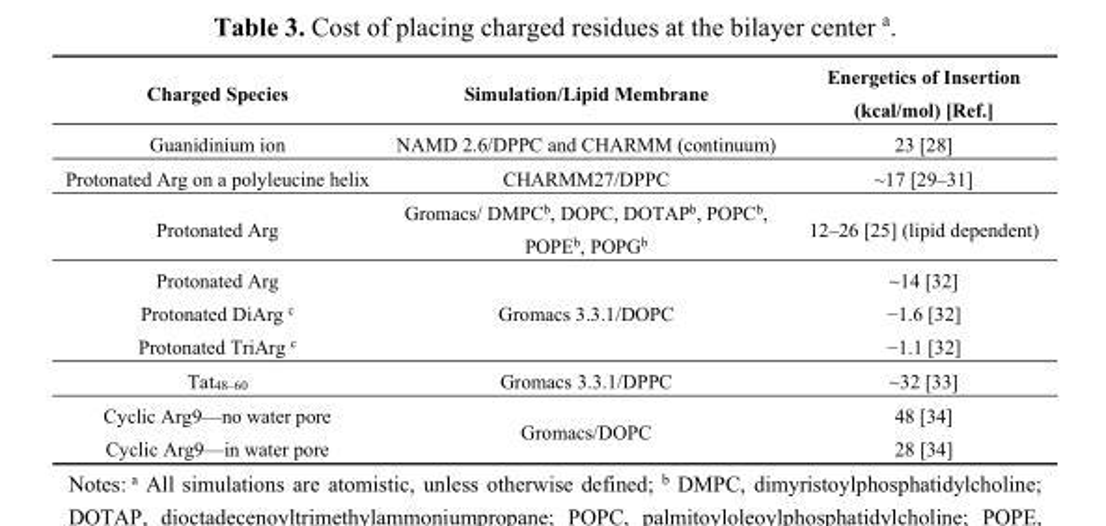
<table><thead><tr><td>Charged Species</td><td>Simulation/Lipid Membrane</td><td>Energetics of Insertion (kcal/mol) [Ref.]</td></tr></thead><tbody><tr><td>Guanidinium ion</td><td>NAMD 2.6/DPPC and CHARMM (continuum)</td><td>23 [28]</td></tr><tr><td>Protonated Arg on a polyleucine helix</td><td>CHARMM27/DPPC</td><td>~17 [29–31]</td></tr><tr><td>Protonated Arg</td><td>Gromacs/ DMPC<sup>b</sup>, DOPC, DOTAP<sup>b</sup>, POPC<sup>b</sup>, POPE<sup>b</sup>, POPG<sup>b</sup></td><td>12–26 [25] (lipid dependent)</td></tr><tr><td>Protonated Arg</td><td rowspan="3">Gromacs 3.3.1/DOPC</td><td>~14 [32]</td></tr><tr><td>Protonated DiArg <sup>c</sup></td><td>−1.6 [32]</td></tr><tr><td>Protonated TriArg <sup>c</sup></td><td>−1.1 [32]</td></tr><tr><td>Tat<sub>48–60</sub></td><td>Gromacs 3.3.1/DPPC</td><td>~32 [33]</td></tr><tr><td>Cyclic Arg9—no water pore</td><td rowspan="2">Gromacs/DOPC</td><td>48 [34]</td></tr><tr><td>Cyclic Arg9—in water pore</td><td>28 [34]</td></tr></tbody></table>